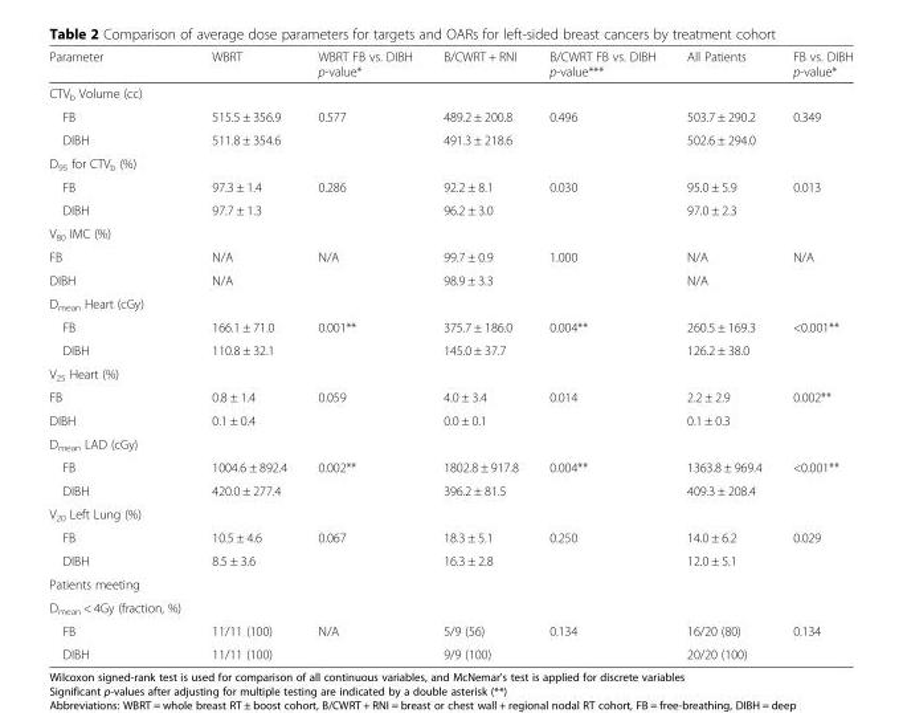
<table><thead><tr><td>Parameter</td><td>WBRT</td><td>WBRT FB vs. DIBH p-value*</td><td>B/CWRT + RNI</td><td>B/CWRT FB vs. DIBH p-value***</td><td>All Patients</td><td>FB vs. DIBH p-value*</td></tr></thead><tbody><tr><td colspan="7">CTV<sub>b</sub> Volume (cc)</td></tr><tr><td>FB</td><td>515.5 ± 356.9</td><td rowspan="2">0.577</td><td>489.2 ± 200.8</td><td rowspan="2">0.496</td><td>503.7 ± 290.2</td><td rowspan="2">0.349</td></tr><tr><td>DIBH</td><td>511.8 ± 354.6</td><td>491.3 ± 218.6</td><td>502.6 ± 294.0</td></tr><tr><td colspan="7">D<sub>95</sub> for CTV<sub>b</sub> (%)</td></tr><tr><td>FB</td><td>97.3 ± 1.4</td><td rowspan="2">0.286</td><td>92.2 ± 8.1</td><td rowspan="2">0.030</td><td>95.0 ± 5.9</td><td rowspan="2">0.013</td></tr><tr><td>DIBH</td><td>97.7 ± 1.3</td><td>96.2 ± 3.0</td><td>97.0 ± 2.3</td></tr><tr><td colspan="7">V<sub>80</sub> IMC (%)</td></tr><tr><td>FB</td><td>N/A</td><td>N/A</td><td>99.7 ± 0.9</td><td rowspan="2">1.000</td><td>N/A</td><td rowspan="2">N/A</td></tr><tr><td>DIBH</td><td>N/A</td><td></td><td>98.9 ± 3.3</td><td>N/A</td></tr><tr><td colspan="7">D<sub>mean</sub> Heart (cGy)</td></tr><tr><td>FB</td><td>166.1 ± 71.0</td><td rowspan="2">0.001**</td><td>375.7 ± 186.0</td><td rowspan="2">0.004**</td><td>260.5 ± 169.3</td><td rowspan="2">&lt;0.001**</td></tr><tr><td>DIBH</td><td>110.8 ± 32.1</td><td>145.0 ± 37.7</td><td>126.2 ± 38.0</td></tr><tr><td colspan="7">V<sub>25</sub> Heart (%)</td></tr><tr><td>FB</td><td>0.8 ± 1.4</td><td rowspan="2">0.059</td><td>4.0 ± 3.4</td><td rowspan="2">0.014</td><td>2.2 ± 2.9</td><td rowspan="2">0.002**</td></tr><tr><td>DIBH</td><td>0.1 ± 0.4</td><td>0.0 ± 0.1</td><td>0.1 ± 0.3</td></tr><tr><td colspan="7">D<sub>mean</sub> LAD (cGy)</td></tr><tr><td>FB</td><td>1004.6 ± 892.4</td><td rowspan="2">0.002**</td><td>1802.8 ± 917.8</td><td rowspan="2">0.004**</td><td>1363.8 ± 969.4</td><td rowspan="2">&lt;0.001**</td></tr><tr><td>DIBH</td><td>420.0 ± 277.4</td><td>396.2 ± 81.5</td><td>409.3 ± 208.4</td></tr><tr><td colspan="7">V<sub>20</sub> Left Lung (%)</td></tr><tr><td>FB</td><td>10.5 ± 4.6</td><td rowspan="2">0.067</td><td>18.3 ± 5.1</td><td rowspan="2">0.250</td><td>14.0 ± 6.2</td><td rowspan="2">0.029</td></tr><tr><td>DIBH</td><td>8.5 ± 3.6</td><td>16.3 ± 2.8</td><td>12.0 ± 5.1</td></tr><tr><td colspan="7">Patients meeting</td></tr><tr><td colspan="7">D<sub>mean</sub> &lt; 4Gy (fraction, %)</td></tr><tr><td>FB</td><td>11/11 (100)</td><td rowspan="2">N/A</td><td>5/9 (56)</td><td rowspan="2">0.134</td><td>16/20 (80)</td><td rowspan="2">0.134</td></tr><tr><td>DIBH</td><td>11/11 (100)</td><td>9/9 (100)</td><td>20/20 (100)</td></tr></tbody></table>